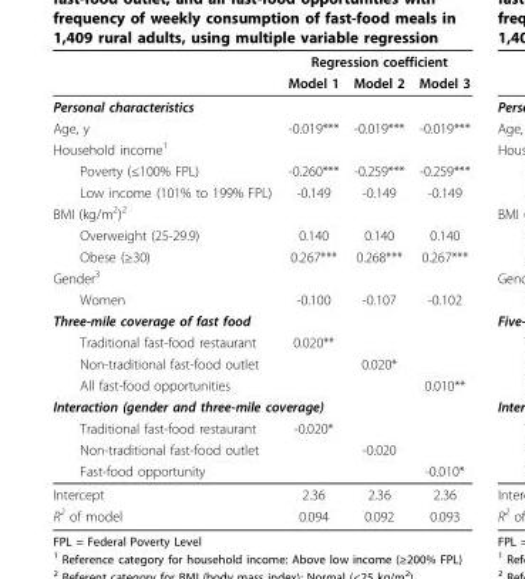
<table><thead><tr><td rowspan="2"></td><td colspan="3">Regression coefficient</td></tr><tr><td>Model 1</td><td>Model 2</td><td>Model 3</td></tr></thead><tbody><tr><td colspan="4">Personal characteristics</td></tr><tr><td>Age, y</td><td>-0.019***</td><td>-0.019***</td><td>-0.019***</td></tr><tr><td colspan="4">Household income<sup>1</sup></td></tr><tr><td>Poverty (≤100% FPL)</td><td>-0.260***</td><td>-0.259***</td><td>-0.259***</td></tr><tr><td>Low income (101% to 199% FPL)</td><td>-0.149</td><td>-0.149</td><td>-0.149</td></tr><tr><td colspan="4">BMI (kg/m<sup>2</sup>)<sup>2</sup></td></tr><tr><td>Overweight (25-29.9)</td><td>0.140</td><td>0.140</td><td>0.140</td></tr><tr><td>Obese (≥30)</td><td>0.267***</td><td>0.268***</td><td>0.267***</td></tr><tr><td colspan="4">Gender<sup>3</sup></td></tr><tr><td>Women</td><td>-0.100</td><td>-0.107</td><td>-0.102</td></tr><tr><td colspan="4">Three-mile coverage of fast food</td></tr><tr><td>Traditional fast-food restaurant</td><td>0.020**</td><td></td><td></td></tr><tr><td>Non-traditional fast-food outlet</td><td></td><td>0.020*</td><td></td></tr><tr><td>All fast-food opportunities</td><td></td><td></td><td>0.010**</td></tr><tr><td colspan="4">Interaction (gender and three-mile coverage)</td></tr><tr><td>Traditional fast-food restaurant</td><td>-0.020*</td><td></td><td></td></tr><tr><td>Non-traditional fast-food outlet</td><td></td><td>-0.020</td><td></td></tr><tr><td>Fast-food opportunity</td><td></td><td></td><td>-0.010*</td></tr><tr><td>Intercept</td><td>2.36</td><td>2.36</td><td>2.36</td></tr><tr><td>R<sup>2</sup> of model</td><td>0.094</td><td>0.092</td><td>0.093</td></tr></tbody></table>